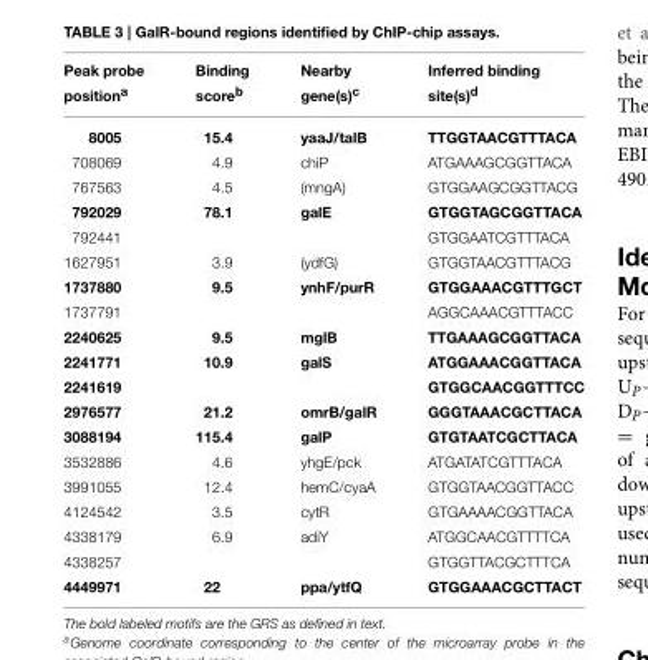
<table><thead><tr><td>Peak probe position<sup>a</sup></td><td>Binding score<sup>b</sup></td><td>Nearby gene(s)<sup>c</sup></td><td>Inferred binding site(s)<sup>d</sup></td></tr></thead><tbody><tr><td>8005</td><td>15.4</td><td>yaaJ/talB</td><td>TTGGTAACGTTTACA</td></tr><tr><td>708069</td><td>4.9</td><td>chiP</td><td>ATGAAAGCGGTTACA</td></tr><tr><td>767563</td><td>4.5</td><td>(mngA)</td><td>GTGGAAGCGGTTACG</td></tr><tr><td>792029</td><td>78.1</td><td>galE</td><td>GTGGTAGCGGTTACA</td></tr><tr><td>792441</td><td></td><td></td><td>GTGGAATCGTTTACA</td></tr><tr><td>1627951</td><td>3.9</td><td>(ydfG)</td><td>GTGGTAACGTTTACG</td></tr><tr><td>1737880</td><td>9.5</td><td>ynhF/purR</td><td>GTGGAAACGTTTGCT</td></tr><tr><td>1737791</td><td></td><td></td><td>AGGCAAACGTTTACC</td></tr><tr><td>2240625</td><td>9.5</td><td>mglB</td><td>TTGAAAGCGGTTACA</td></tr><tr><td>2241771</td><td>10.9</td><td>galS</td><td>ATGGAAACGGTTACA</td></tr><tr><td>2241619</td><td></td><td></td><td>GTGGCAACGGTTTCC</td></tr><tr><td>2976577</td><td>21.2</td><td>omrB/galR</td><td>GGGTAAACGCTTACA</td></tr><tr><td>3088194</td><td>115.4</td><td>galP</td><td>GTGTAATCGCTTACA</td></tr><tr><td>3532886</td><td>4.6</td><td>yhgE/pck</td><td>ATGATATCGTTTACA</td></tr><tr><td>3991055</td><td>12.4</td><td>hemC/cyaA</td><td>GTGGTAACGGTTACC</td></tr><tr><td>4124542</td><td>3.5</td><td>cytR</td><td>GTGAAAACGGTTACA</td></tr><tr><td>4338179</td><td>6.9</td><td>adiY</td><td>ATGGCAACGTTTTCA</td></tr><tr><td>4338257</td><td></td><td></td><td>GTGGTTACGCTTTCA</td></tr><tr><td>4449971</td><td>22</td><td>ppa/ytfQ</td><td>GTGGAAACGCTTACT</td></tr></tbody></table>